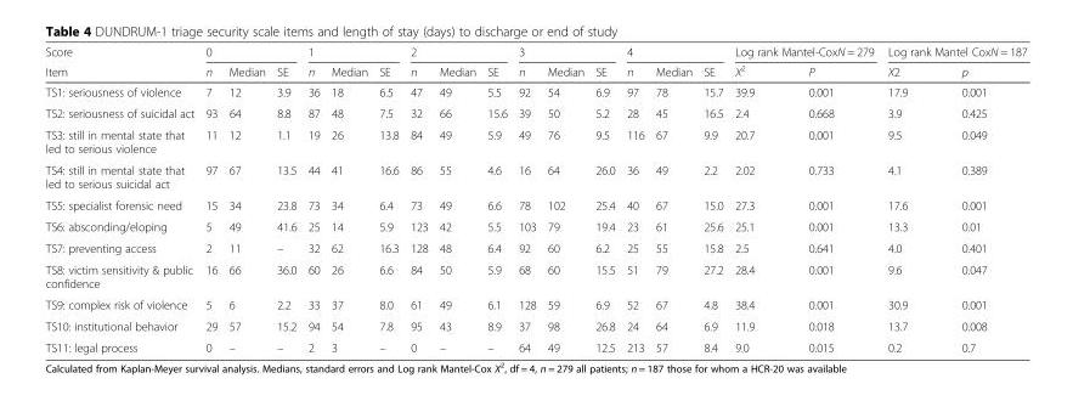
<table><thead><tr><td rowspan="2">Score Item</td><td colspan="3">0</td><td colspan="3">1</td><td colspan="3">2</td><td colspan="3">3</td><td colspan="3">4</td><td colspan="2">Log rank Mantel-CoxN = 279</td><td colspan="2">Log rank Mantel CoxN = 187</td></tr><tr><td>n</td><td>Median</td><td>SE</td><td>n</td><td>Median</td><td>SE</td><td>n</td><td>Median</td><td>SE</td><td>n</td><td>Median</td><td>SE</td><td>n</td><td>Median</td><td>SE</td><td>X<sup>2</sup></td><td>P</td><td>X2</td><td>p</td></tr></thead><tbody><tr><td>TS1: seriousness of violence</td><td>7</td><td>12</td><td>3.9</td><td>36</td><td>18</td><td>6.5</td><td>47</td><td>49</td><td>5.5</td><td>92</td><td>54</td><td>6.9</td><td>97</td><td>78</td><td>15.7</td><td>39.9</td><td>0.001</td><td>17.9</td><td>0.001</td></tr><tr><td>TS2: seriousness of suicidal act</td><td>93</td><td>64</td><td>8.8</td><td>87</td><td>48</td><td>7.5</td><td>32</td><td>66</td><td>15.6</td><td>39</td><td>50</td><td>5.2</td><td>28</td><td>45</td><td>16.5</td><td>2.4</td><td>0.668</td><td>3.9</td><td>0.425</td></tr><tr><td>TS3: still in mental state that led to serious violence</td><td>11</td><td>12</td><td>1.1</td><td>19</td><td>26</td><td>13.8</td><td>84</td><td>49</td><td>5.9</td><td>49</td><td>76</td><td>9.5</td><td>116</td><td>67</td><td>9.9</td><td>20.7</td><td>0.001</td><td>9.5</td><td>0.049</td></tr><tr><td>TS4: still in mental state that led to serious suicidal act</td><td>97</td><td>67</td><td>13.5</td><td>44</td><td>41</td><td>16.6</td><td>86</td><td>55</td><td>4.6</td><td>16</td><td>64</td><td>26.0</td><td>36</td><td>49</td><td>2.2</td><td>2.02</td><td>0.733</td><td>4.1</td><td>0.389</td></tr><tr><td>TS5: specialist forensic need</td><td>15</td><td>34</td><td>23.8</td><td>73</td><td>34</td><td>6.4</td><td>73</td><td>49</td><td>6.6</td><td>78</td><td>102</td><td>25.4</td><td>40</td><td>67</td><td>15.0</td><td>27.3</td><td>0.001</td><td>17.6</td><td>0.001</td></tr><tr><td>TS6: absconding/eloping</td><td>5</td><td>49</td><td>41.6</td><td>25</td><td>14</td><td>5.9</td><td>123</td><td>42</td><td>5.5</td><td>103</td><td>79</td><td>19.4</td><td>23</td><td>61</td><td>25.6</td><td>25.1</td><td>0.001</td><td>13.3</td><td>0.01</td></tr><tr><td>TS7: preventing access</td><td>2</td><td>11</td><td>–</td><td>32</td><td>62</td><td>16.3</td><td>128</td><td>48</td><td>6.4</td><td>92</td><td>60</td><td>6.2</td><td>25</td><td>55</td><td>15.8</td><td>2.5</td><td>0.641</td><td>4.0</td><td>0.401</td></tr><tr><td>TS8: victim sensitivity &amp; public confidence</td><td>16</td><td>66</td><td>36.0</td><td>60</td><td>26</td><td>6.6</td><td>84</td><td>50</td><td>5.9</td><td>68</td><td>60</td><td>15.5</td><td>51</td><td>79</td><td>27.2</td><td>28.4</td><td>0.001</td><td>9.6</td><td>0.047</td></tr><tr><td>TS9: complex risk of violence</td><td>5</td><td>6</td><td>2.2</td><td>33</td><td>37</td><td>8.0</td><td>61</td><td>49</td><td>6.1</td><td>128</td><td>59</td><td>6.9</td><td>52</td><td>67</td><td>4.8</td><td>38.4</td><td>0.001</td><td>30.9</td><td>0.001</td></tr><tr><td>TS10: institutional behavior</td><td>29</td><td>57</td><td>15.2</td><td>94</td><td>54</td><td>7.8</td><td>95</td><td>43</td><td>8.9</td><td>37</td><td>98</td><td>26.8</td><td>24</td><td>64</td><td>6.9</td><td>11.9</td><td>0.018</td><td>13.7</td><td>0.008</td></tr><tr><td>TS11: legal process</td><td>0</td><td>–</td><td>–</td><td>2</td><td>3</td><td>–</td><td>0</td><td>–</td><td>–</td><td>64</td><td>49</td><td>12.5</td><td>213</td><td>57</td><td>8.4</td><td>9.0</td><td>0.015</td><td>0.2</td><td>0.7</td></tr></tbody></table>